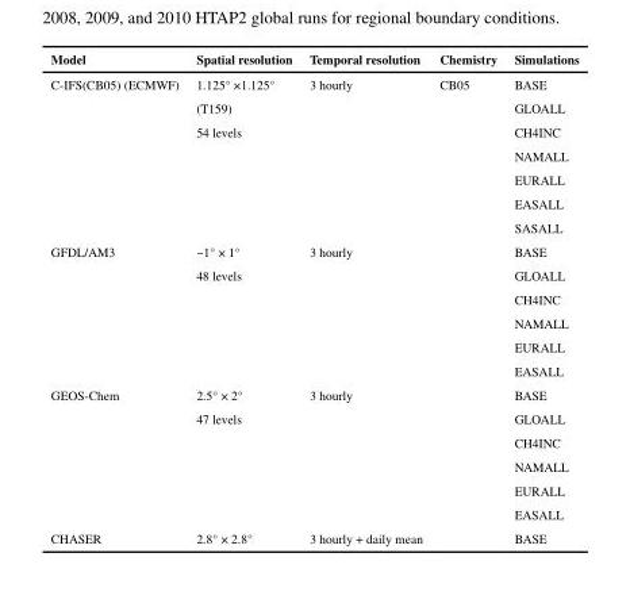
<table><thead><tr><td>Model</td><td>Spatial resolution</td><td>Temporal resolution</td><td>Chemistry</td><td>Simulations</td></tr></thead><tbody><tr><td rowspan="7">C-IFS(CB05) (ECMWF)</td><td>1.125° ×1.125°</td><td>3 hourly</td><td>CB05</td><td>BASE</td></tr><tr><td>(T159)</td><td></td><td></td><td>GLOALL</td></tr><tr><td>54 levels</td><td></td><td></td><td>CH4INC</td></tr><tr><td></td><td></td><td></td><td>NAMALL</td></tr><tr><td></td><td></td><td></td><td>EURALL</td></tr><tr><td></td><td></td><td></td><td>EASALL</td></tr><tr><td></td><td></td><td></td><td>SASALL</td></tr><tr><td rowspan="6">GFDL/AM3</td><td>~1° × 1°</td><td>3 hourly</td><td></td><td>BASE</td></tr><tr><td>48 levels</td><td></td><td></td><td>GLOALL</td></tr><tr><td></td><td></td><td></td><td>CH4INC</td></tr><tr><td></td><td></td><td></td><td>NAMALL</td></tr><tr><td></td><td></td><td></td><td>EURALL</td></tr><tr><td></td><td></td><td></td><td>EASALL</td></tr><tr><td rowspan="6">GEOS-Chem</td><td>2.5° × 2°</td><td>3 hourly</td><td></td><td>BASE</td></tr><tr><td>47 levels</td><td></td><td></td><td>GLOALL</td></tr><tr><td></td><td></td><td></td><td>CH4INC</td></tr><tr><td></td><td></td><td></td><td>NAMALL</td></tr><tr><td></td><td></td><td></td><td>EURALL</td></tr><tr><td></td><td></td><td></td><td>EASALL</td></tr><tr><td>CHASER</td><td>2.8° × 2.8°</td><td>3 hourly + daily mean</td><td></td><td>BASE</td></tr></tbody></table>